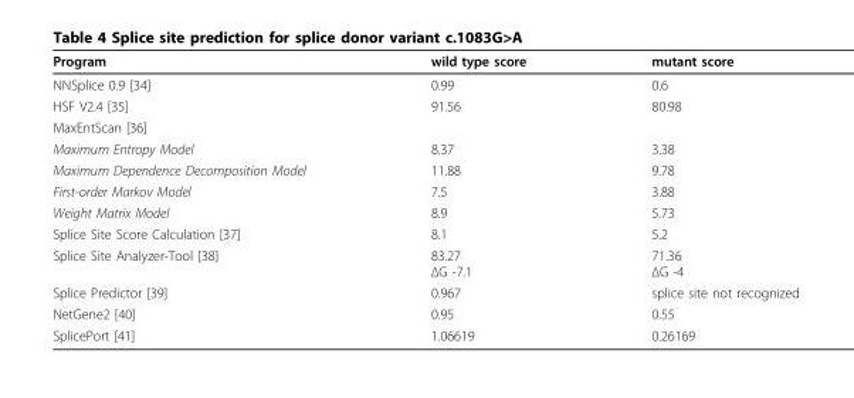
<table><thead><tr><td>Program</td><td>wild type score</td><td>mutant score</td></tr></thead><tbody><tr><td>NNSplice 0.9 [34]</td><td>0.99</td><td>0.6</td></tr><tr><td>HSF V2.4 [35]</td><td>91.56</td><td>80.98</td></tr><tr><td colspan="3">MaxEntScan [36]</td></tr><tr><td>Maximum Entropy Model</td><td>8.37</td><td>3.38</td></tr><tr><td>Maximum Dependence Decomposition Model</td><td>11.88</td><td>9.78</td></tr><tr><td>First-order Markov Model</td><td>7.5</td><td>3.88</td></tr><tr><td>Weight Matrix Model</td><td>8.9</td><td>5.73</td></tr><tr><td>Splice Site Score Calculation [37]</td><td>8.1</td><td>5.2</td></tr><tr><td>Splice Site Analyzer-Tool [38]</td><td>83.27 ΔG -7.1</td><td>71.36 ΔG -4</td></tr><tr><td>Splice Predictor [39]</td><td>0.967</td><td>splice site not recognized</td></tr><tr><td>NetGene2 [40]</td><td>0.95</td><td>0.55</td></tr><tr><td>SplicePort [41]</td><td>1.06619</td><td>0.26169</td></tr></tbody></table>